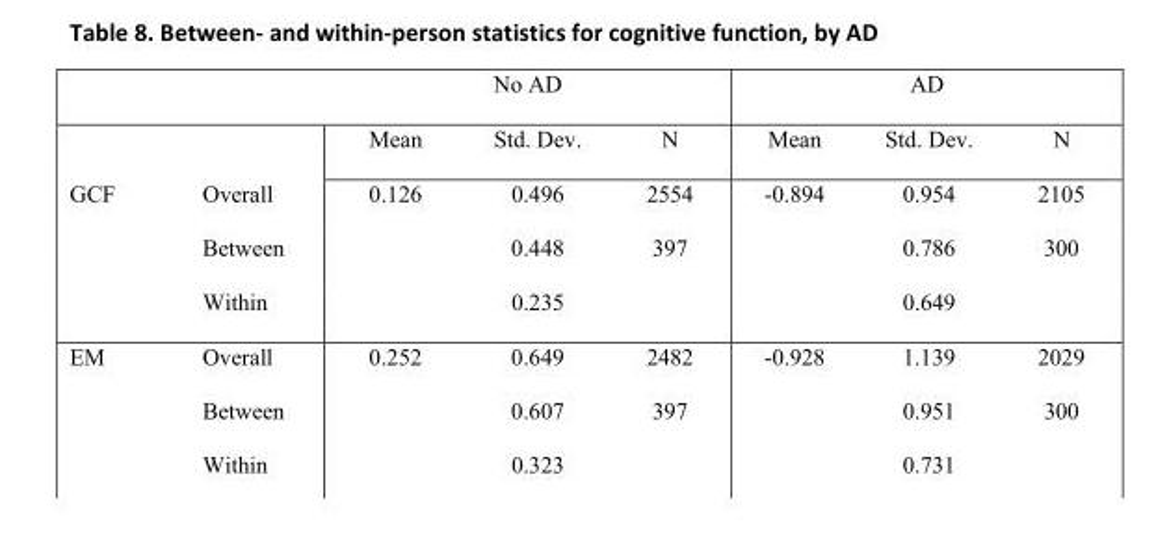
<table><thead><tr><td rowspan="2"></td><td rowspan="2"></td><td colspan="3">No AD</td><td colspan="3">AD</td></tr><tr><td>Mean</td><td>Std. Dev.</td><td>N</td><td>Mean</td><td>Std. Dev.</td><td>N</td></tr></thead><tbody><tr><td rowspan="3">GCF</td><td>Overall</td><td>0.126</td><td>0.496</td><td>2554</td><td>-0.894</td><td>0.954</td><td>2105</td></tr><tr><td>Between</td><td></td><td>0.448</td><td>397</td><td></td><td>0.786</td><td>300</td></tr><tr><td>Within</td><td></td><td>0.235</td><td></td><td></td><td>0.649</td><td></td></tr><tr><td rowspan="3">EM</td><td>Overall</td><td>0.252</td><td>0.649</td><td>2482</td><td>-0.928</td><td>1.139</td><td>2029</td></tr><tr><td>Between</td><td></td><td>0.607</td><td>397</td><td></td><td>0.951</td><td>300</td></tr><tr><td>Within</td><td></td><td>0.323</td><td></td><td></td><td>0.731</td><td></td></tr></tbody></table>